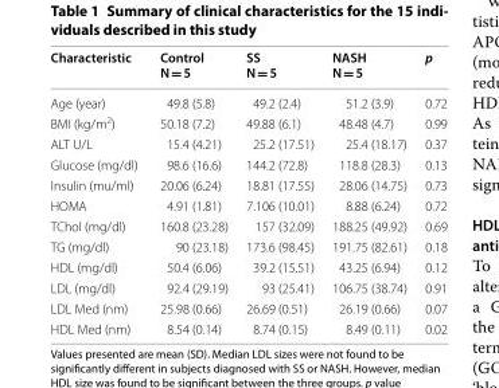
<table><thead><tr><td>Characteristic</td><td>Control N = 5</td><td>SS N = 5</td><td>NASH N = 5</td><td>p</td></tr></thead><tbody><tr><td>Age (year)</td><td>49.8 (5.8)</td><td>49.2 (2.4)</td><td>51.2 (3.9)</td><td>0.72</td></tr><tr><td>BMI (kg/m<sup>2</sup>)</td><td>50.18 (7.2)</td><td>49.88 (6.1)</td><td>48.48 (4.7)</td><td>0.99</td></tr><tr><td>ALT U/L</td><td>15.4 (4.21)</td><td>25.2 (17.51)</td><td>25.4 (18.17)</td><td>0.37</td></tr><tr><td>Glucose (mg/dl)</td><td>98.6 (16.6)</td><td>144.2 (72.8)</td><td>118.8 (28.3)</td><td>0.13</td></tr><tr><td>Insulin (mu/ml)</td><td>20.06 (6.24)</td><td>18.81 (17.55)</td><td>28.06 (14.75)</td><td>0.73</td></tr><tr><td>HOMA</td><td>4.91 (1.81)</td><td>7.106 (10.01)</td><td>8.88 (6.24)</td><td>0.72</td></tr><tr><td>TChol (mg/dl)</td><td>160.8 (23.28)</td><td>157 (32.09)</td><td>188.25 (49.92)</td><td>0.69</td></tr><tr><td>TG (mg/dl)</td><td>90 (23.18)</td><td>173.6 (98.45)</td><td>191.75 (82.61)</td><td>0.18</td></tr><tr><td>HDL (mg/dl)</td><td>50.4 (6.06)</td><td>39.2 (15.51)</td><td>43.25 (6.94)</td><td>0.12</td></tr><tr><td>LDL (mg/dl)</td><td>92.4 (29.19)</td><td>93 (25.41)</td><td>106.75 (38.74)</td><td>0.91</td></tr><tr><td>LDL Med (nm)</td><td>25.98 (0.66)</td><td>26.69 (0.51)</td><td>26.19 (0.66)</td><td>0.07</td></tr><tr><td>HDL Med (nm)</td><td>8.54 (0.14)</td><td>8.74 (0.15)</td><td>8.49 (0.11)</td><td>0.02</td></tr></tbody></table>